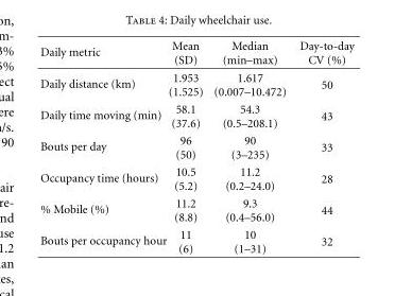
<table><thead><tr><td>Daily metric</td><td>Mean (SD)</td><td>Median (min–max)</td><td>Day-to-day CV (%)</td></tr></thead><tbody><tr><td>Daily distance (km)</td><td>1.953 (1.525)</td><td>1.617 (0.007–10.472)</td><td>50</td></tr><tr><td>Daily time moving (min)</td><td>58.1 (37.6)</td><td>54.3 (0.5–208.1)</td><td>43</td></tr><tr><td>Bouts per day</td><td>96 (50)</td><td>90 (3–235)</td><td>33</td></tr><tr><td>Occupancy time (hours)</td><td>10.5 (5.2)</td><td>11.2 (0.2–24.0)</td><td>28</td></tr><tr><td>% Mobile (%)</td><td>11.2 (8.8)</td><td>9.3 (0.4–56.0)</td><td>44</td></tr><tr><td>Bouts per occupancy hour</td><td>11 (6)</td><td>10 (1–31)</td><td>32</td></tr></tbody></table>